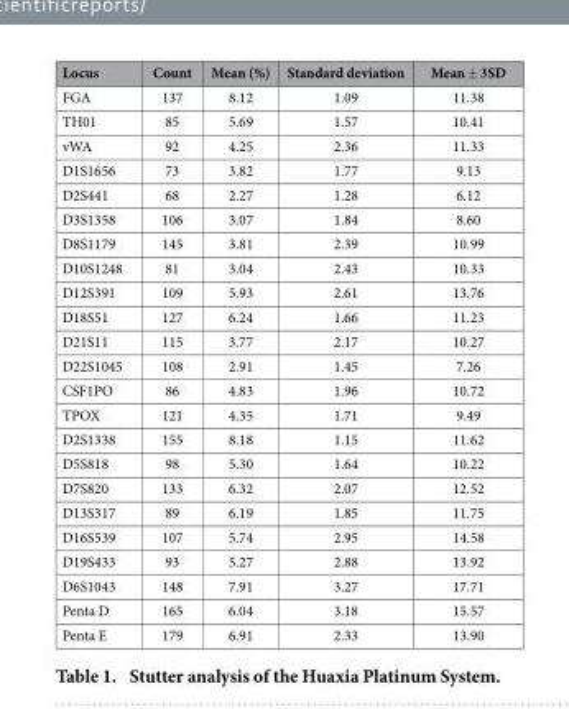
<table><thead><tr><td>Locus</td><td>Count</td><td>Mean (%)</td><td>Standard deviation</td><td>Mean ± 3SD</td></tr></thead><tbody><tr><td>FGA</td><td>137</td><td>8.12</td><td>1.09</td><td>11.38</td></tr><tr><td>TH01</td><td>85</td><td>5.69</td><td>1.57</td><td>10.41</td></tr><tr><td>vWA</td><td>92</td><td>4.25</td><td>2.36</td><td>11.33</td></tr><tr><td>D1S1656</td><td>73</td><td>3.82</td><td>1.77</td><td>9.13</td></tr><tr><td>D2S441</td><td>68</td><td>2.27</td><td>1.28</td><td>6.12</td></tr><tr><td>D3S1358</td><td>106</td><td>3.07</td><td>1.84</td><td>8.60</td></tr><tr><td>D8S1179</td><td>145</td><td>3.81</td><td>2.39</td><td>10.99</td></tr><tr><td>D10S1248</td><td>81</td><td>3.04</td><td>2.43</td><td>10.33</td></tr><tr><td>D12S391</td><td>109</td><td>5.93</td><td>2.61</td><td>13.76</td></tr><tr><td>D18S51</td><td>127</td><td>6.24</td><td>1.66</td><td>11.23</td></tr><tr><td>D21S11</td><td>115</td><td>3.77</td><td>2.17</td><td>10.27</td></tr><tr><td>D22S1045</td><td>108</td><td>2.91</td><td>1.45</td><td>7.26</td></tr><tr><td>CSF1PO</td><td>86</td><td>4.83</td><td>1.96</td><td>10.72</td></tr><tr><td>TPOX</td><td>121</td><td>4.35</td><td>1.71</td><td>9.49</td></tr><tr><td>D2S1338</td><td>155</td><td>8.18</td><td>1.15</td><td>11.62</td></tr><tr><td>D5S818</td><td>98</td><td>5.30</td><td>1.64</td><td>10.22</td></tr><tr><td>D7S820</td><td>133</td><td>6.32</td><td>2.07</td><td>12.52</td></tr><tr><td>D13S317</td><td>89</td><td>6.19</td><td>1.85</td><td>11.75</td></tr><tr><td>D16S539</td><td>107</td><td>5.74</td><td>2.95</td><td>14.58</td></tr><tr><td>D19S433</td><td>93</td><td>5.27</td><td>2.88</td><td>13.92</td></tr><tr><td>D6S1043</td><td>148</td><td>7.91</td><td>3.27</td><td>17.71</td></tr><tr><td>Penta D</td><td>165</td><td>6.04</td><td>3.18</td><td>15.57</td></tr><tr><td>Penta E</td><td>179</td><td>6.91</td><td>2.33</td><td>13.90</td></tr></tbody></table>